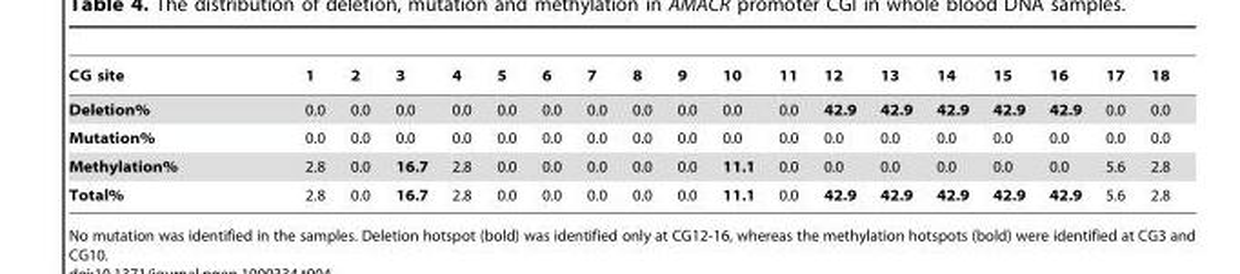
<table><thead><tr><td>CG site</td><td>1</td><td>2</td><td>3</td><td>4</td><td>5</td><td>6</td><td>7</td><td>8</td><td>9</td><td>10</td><td>11</td><td>12</td><td>13</td><td>14</td><td>15</td><td>16</td><td>17</td><td>18</td></tr></thead><tbody><tr><td>Deletion%</td><td>0.0</td><td>0.0</td><td>0.0</td><td>0.0</td><td>0.0</td><td>0.0</td><td>0.0</td><td>0.0</td><td>0.0</td><td>0.0</td><td>0.0</td><td>42.9</td><td>42.9</td><td>42.9</td><td>42.9</td><td>42.9</td><td>0.0</td><td>0.0</td></tr><tr><td>Mutation%</td><td>0.0</td><td>0.0</td><td>0.0</td><td>0.0</td><td>0.0</td><td>0.0</td><td>0.0</td><td>0.0</td><td>0.0</td><td>0.0</td><td>0.0</td><td>0.0</td><td>0.0</td><td>0.0</td><td>0.0</td><td>0.0</td><td>0.0</td><td>0.0</td></tr><tr><td>Methylation%</td><td>2.8</td><td>0.0</td><td>16.7</td><td>2.8</td><td>0.0</td><td>0.0</td><td>0.0</td><td>0.0</td><td>0.0</td><td>11.1</td><td>0.0</td><td>0.0</td><td>0.0</td><td>0.0</td><td>0.0</td><td>0.0</td><td>5.6</td><td>2.8</td></tr><tr><td>Total%</td><td>2.8</td><td>0.0</td><td>16.7</td><td>2.8</td><td>0.0</td><td>0.0</td><td>0.0</td><td>0.0</td><td>0.0</td><td>11.1</td><td>0.0</td><td>42.9</td><td>42.9</td><td>42.9</td><td>42.9</td><td>42.9</td><td>5.6</td><td>2.8</td></tr></tbody></table>